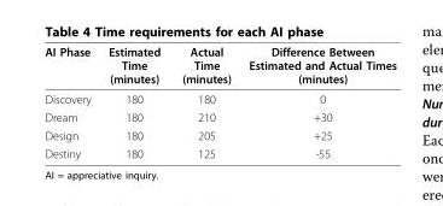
<table><thead><tr><td>AI Phase</td><td>Estimated Time (minutes)</td><td>Actual Time (minutes)</td><td>Difference Between Estimated and Actual Times (minutes)</td></tr></thead><tbody><tr><td>Discovery</td><td>180</td><td>180</td><td>0</td></tr><tr><td>Dream</td><td>180</td><td>210</td><td>+30</td></tr><tr><td>Design</td><td>180</td><td>205</td><td>+25</td></tr><tr><td>Destiny</td><td>180</td><td>125</td><td>-55</td></tr></tbody></table>